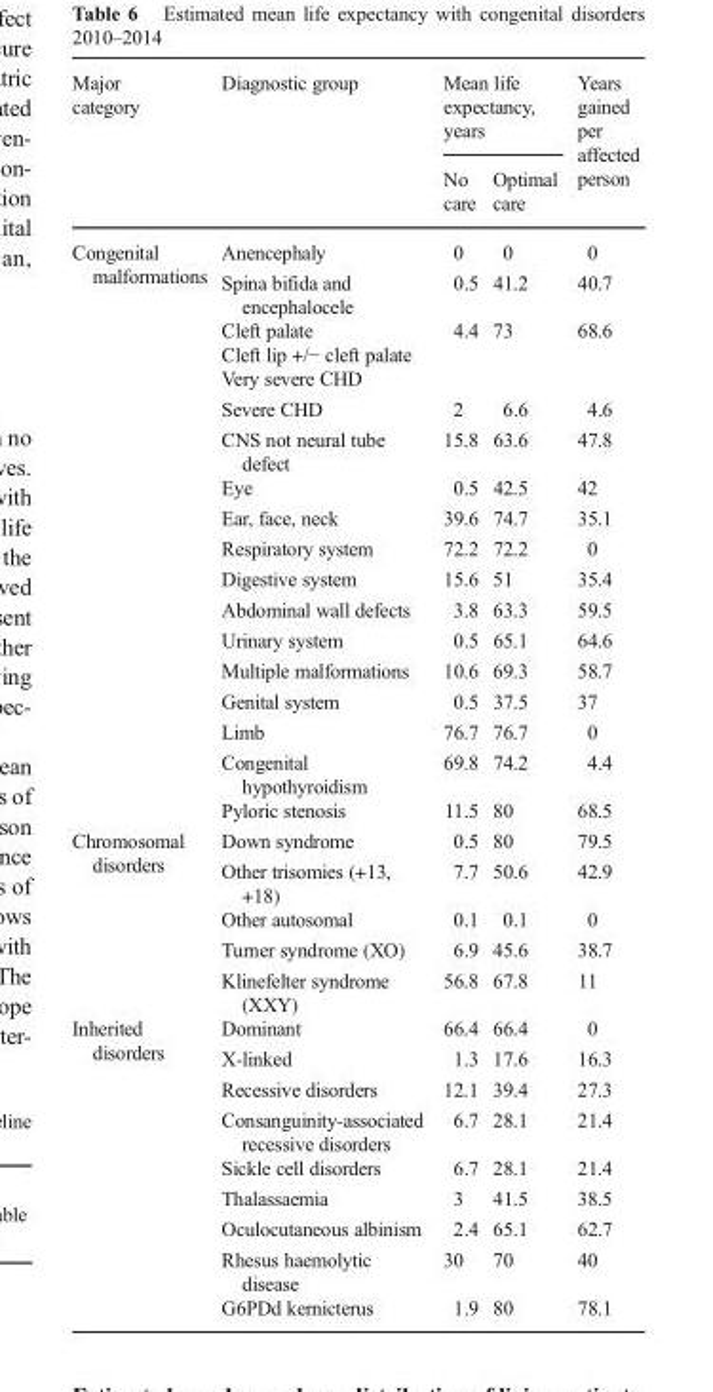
<table><thead><tr><td rowspan="2">Major category</td><td rowspan="2">Diagnostic group</td><td colspan="2">Mean life expectancy, years</td><td rowspan="2">Years gained per affected person</td></tr><tr><td>No care</td><td>Optimal care</td></tr></thead><tbody><tr><td rowspan="17">Congenital malformations</td><td>Anencephaly</td><td>0</td><td>0</td><td>0</td></tr><tr><td>Spina bifida and encephalocele</td><td>0.5</td><td>41.2</td><td>40.7</td></tr><tr><td>Cleft palate Cleft lip +/− cleft palate</td><td>4.4</td><td>73</td><td>68.6</td></tr><tr><td>Very severe CHD</td><td></td><td></td><td></td></tr><tr><td>Severe CHD</td><td>2</td><td>6.6</td><td>4.6</td></tr><tr><td>CNS not neural tube defect</td><td>15.8</td><td>63.6</td><td>47.8</td></tr><tr><td>Eye</td><td>0.5</td><td>42.5</td><td>42</td></tr><tr><td>Ear, face, neck</td><td>39.6</td><td>74.7</td><td>35.1</td></tr><tr><td>Respiratory system</td><td>72.2</td><td>72.2</td><td>0</td></tr><tr><td>Digestive system</td><td>15.6</td><td>51</td><td>35.4</td></tr><tr><td>Abdominal wall defects</td><td>3.8</td><td>63.3</td><td>59.5</td></tr><tr><td>Urinary system</td><td>0.5</td><td>65.1</td><td>64.6</td></tr><tr><td>Multiple malformations</td><td>10.6</td><td>69.3</td><td>58.7</td></tr><tr><td>Genital system</td><td>0.5</td><td>37.5</td><td>37</td></tr><tr><td>Limb</td><td>76.7</td><td>76.7</td><td>0</td></tr><tr><td>Congenital hypothyroidism</td><td>69.8</td><td>74.2</td><td>4.4</td></tr><tr><td>Pyloric stenosis</td><td>11.5</td><td>80</td><td>68.5</td></tr><tr><td rowspan="5">Chromosomal disorders</td><td>Down syndrome</td><td>0.5</td><td>80</td><td>79.5</td></tr><tr><td>Other trisomies (+13, +18)</td><td>7.7</td><td>50.6</td><td>42.9</td></tr><tr><td>Other autosomal</td><td>0.1</td><td>0.1</td><td>0</td></tr><tr><td>Turner syndrome (XO)</td><td>6.9</td><td>45.6</td><td>38.7</td></tr><tr><td>Klinefelter syndrome (XXY)</td><td>56.8</td><td>67.8</td><td>11</td></tr><tr><td rowspan="9">Inherited disorders</td><td>Dominant</td><td>66.4</td><td>66.4</td><td>0</td></tr><tr><td>X-linked</td><td>1.3</td><td>17.6</td><td>16.3</td></tr><tr><td>Recessive disorders</td><td>12.1</td><td>39.4</td><td>27.3</td></tr><tr><td>Consanguinity-associated recessive disorders</td><td>6.7</td><td>28.1</td><td>21.4</td></tr><tr><td>Sickle cell disorders</td><td>6.7</td><td>28.1</td><td>21.4</td></tr><tr><td>Thalassaemia</td><td>3</td><td>41.5</td><td>38.5</td></tr><tr><td>Oculocutaneous albinism</td><td>2.4</td><td>65.1</td><td>62.7</td></tr><tr><td>Rhesus haemolytic disease</td><td>30</td><td>70</td><td>40</td></tr><tr><td>G6PDd kernicterus</td><td>1.9</td><td>80</td><td>78.1</td></tr></tbody></table>